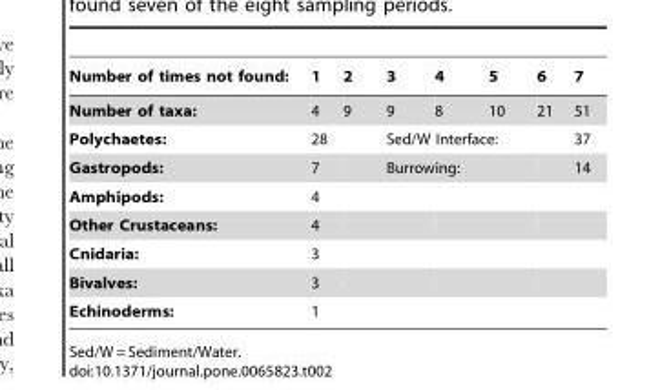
<table><thead><tr><td>Number of times not found:</td><td>1</td><td>2</td><td>3</td><td>4</td><td>5</td><td>6</td><td>7</td></tr></thead><tbody><tr><td>Number of taxa:</td><td>4</td><td>9</td><td>9</td><td>8</td><td>10</td><td>21</td><td>51</td></tr><tr><td>Polychaetes:</td><td>28</td><td></td><td colspan="3">Sed/W Interface:</td><td></td><td>37</td></tr><tr><td>Gastropods:</td><td>7</td><td></td><td colspan="2">Burrowing:</td><td></td><td></td><td>14</td></tr><tr><td>Amphipods:</td><td>4</td><td></td><td></td><td></td><td></td><td></td><td></td></tr><tr><td>Other Crustaceans:</td><td>4</td><td></td><td></td><td></td><td></td><td></td><td></td></tr><tr><td>Cnidaria:</td><td>3</td><td></td><td></td><td></td><td></td><td></td><td></td></tr><tr><td>Bivalves:</td><td>3</td><td></td><td></td><td></td><td></td><td></td><td></td></tr><tr><td>Echinoderms:</td><td>1</td><td></td><td></td><td></td><td></td><td></td><td></td></tr></tbody></table>